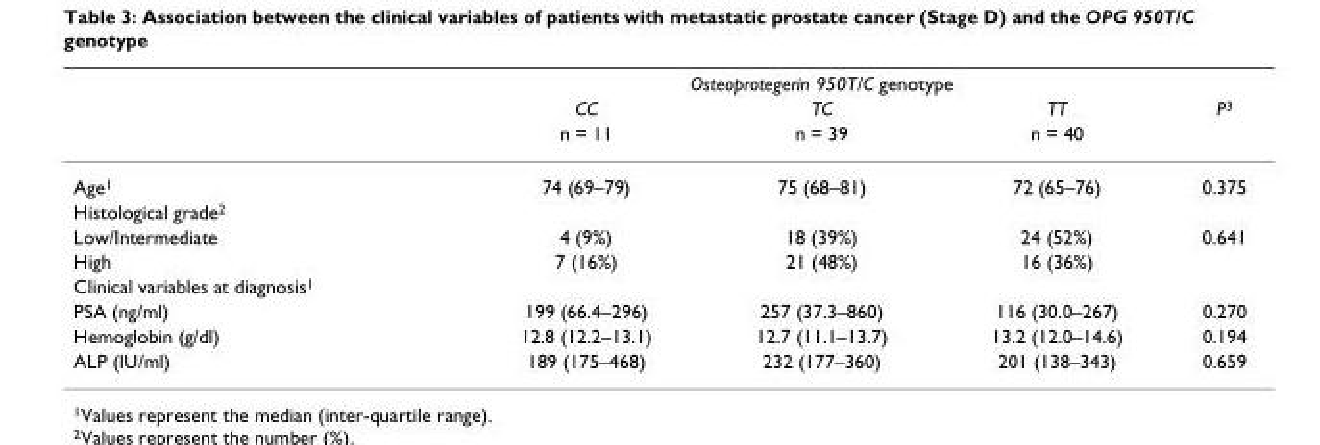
<table><thead><tr><td rowspan="3"></td><td colspan="3">Osteoprotegerin 950T/C genotype</td><td rowspan="3">P<sup>3</sup></td></tr><tr><td rowspan="2">CC n = 11</td><td rowspan="2">TC n = 39</td><td rowspan="2">TT n = 40</td></tr><tr></tr></thead><tbody><tr><td>Age<sup>1</sup></td><td>74 (69–79)</td><td>75 (68–81)</td><td>72 (65–76)</td><td>0.375</td></tr><tr><td colspan="5">Histological grade<sup>2</sup></td></tr><tr><td>Low/Intermediate</td><td>4 (9%)</td><td>18 (39%)</td><td>24 (52%)</td><td>0.641</td></tr><tr><td>High</td><td>7 (16%)</td><td>21 (48%)</td><td>16 (36%)</td><td></td></tr><tr><td colspan="5">Clinical variables at diagnosis<sup>1</sup></td></tr><tr><td>PSA (ng/ml)</td><td>199 (66.4–296)</td><td>257 (37.3–860)</td><td>116 (30.0–267)</td><td>0.270</td></tr><tr><td>Hemoglobin (g/dl)</td><td>12.8 (12.2–13.1)</td><td>12.7 (11.1–13.7)</td><td>13.2 (12.0–14.6)</td><td>0.194</td></tr><tr><td>ALP (IU/ml)</td><td>189 (175–468)</td><td>232 (177–360)</td><td>201 (138–343)</td><td>0.659</td></tr></tbody></table>